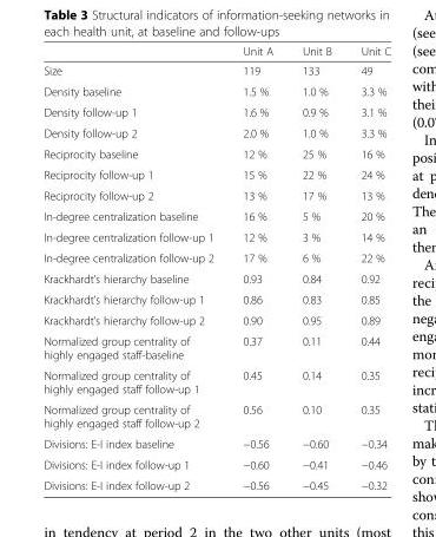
<table><thead><tr><td></td><td>Unit A</td><td>Unit B</td><td>Unit C</td></tr></thead><tbody><tr><td>Size</td><td>119</td><td>133</td><td>49</td></tr><tr><td>Density baseline</td><td>1.5 %</td><td>1.0 %</td><td>3.3 %</td></tr><tr><td>Density follow-up 1</td><td>1.6 %</td><td>0.9 %</td><td>3.1 %</td></tr><tr><td>Density follow-up 2</td><td>2.0 %</td><td>1.0 %</td><td>3.3 %</td></tr><tr><td>Reciprocity baseline</td><td>12 %</td><td>25 %</td><td>16 %</td></tr><tr><td>Reciprocity follow-up 1</td><td>15 %</td><td>22 %</td><td>24 %</td></tr><tr><td>Reciprocity follow-up 2</td><td>13 %</td><td>17 %</td><td>13 %</td></tr><tr><td>In-degree centralization baseline</td><td>16 %</td><td>5 %</td><td>20 %</td></tr><tr><td>In-degree centralization follow-up 1</td><td>12 %</td><td>3 %</td><td>14 %</td></tr><tr><td>In-degree centralization follow-up 2</td><td>17 %</td><td>6 %</td><td>22 %</td></tr><tr><td>Krackhardt’s hierarchy baseline</td><td>0.93</td><td>0.84</td><td>0.92</td></tr><tr><td>Krackhardt’s hierarchy follow-up 1</td><td>0.86</td><td>0.83</td><td>0.85</td></tr><tr><td>Krackhardt’s hierarchy follow-up 2</td><td>0.90</td><td>0.95</td><td>0.89</td></tr><tr><td>Normalized group centrality of highly engaged staff-baseline</td><td>0.37</td><td>0.11</td><td>0.44</td></tr><tr><td>Normalized group centrality of highly engaged staff follow-up 1</td><td>0.45</td><td>0.14</td><td>0.35</td></tr><tr><td>Normalized group centrality of highly engaged staff follow-up 2</td><td>0.56</td><td>0.10</td><td>0.35</td></tr><tr><td>Divisions: E-I index baseline</td><td>−0.56</td><td>−0.60</td><td>−0.34</td></tr><tr><td>Divisions: E-I index follow-up 1</td><td>−0.60</td><td>−0.41</td><td>−0.46</td></tr><tr><td>Divisions: E-I index follow-up 2</td><td>−0.56</td><td>−0.45</td><td>−0.32</td></tr></tbody></table>